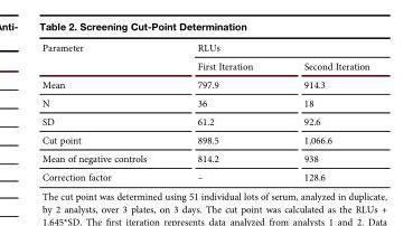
<table><thead><tr><td rowspan="2">Parameter</td><td colspan="2">RLUs</td></tr><tr><td>First Iteration</td><td>Second Iteration</td></tr></thead><tbody><tr><td>Mean</td><td>797.9</td><td>914.3</td></tr><tr><td>N</td><td>36</td><td>18</td></tr><tr><td>SD</td><td>61.2</td><td>92.6</td></tr><tr><td>Cut point</td><td>898.5</td><td>1,066.6</td></tr><tr><td>Mean of negative controls</td><td>814.2</td><td>938</td></tr><tr><td>Correction factor</td><td>–</td><td>128.6</td></tr></tbody></table>